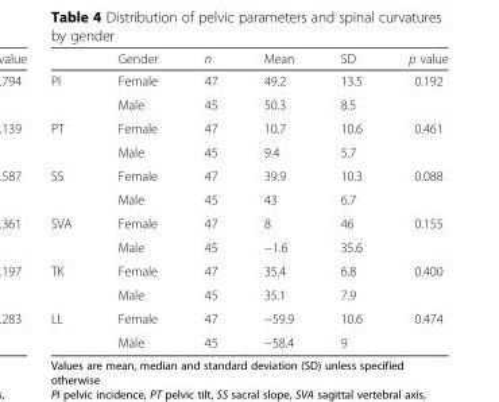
<table><thead><tr><td></td><td>Gender</td><td>n</td><td>Mean</td><td>SD</td><td>p value</td></tr></thead><tbody><tr><td rowspan="2">PI</td><td>Female</td><td>47</td><td>49.2</td><td>13.5</td><td rowspan="2">0.192</td></tr><tr><td>Male</td><td>45</td><td>50.3</td><td>8.5</td></tr><tr><td rowspan="2">PT</td><td>Female</td><td>47</td><td>10.7</td><td>10.6</td><td rowspan="2">0.461</td></tr><tr><td>Male</td><td>45</td><td>9.4</td><td>5.7</td></tr><tr><td rowspan="2">SS</td><td>Female</td><td>47</td><td>39.9</td><td>10.3</td><td rowspan="2">0.088</td></tr><tr><td>Male</td><td>45</td><td>43</td><td>6.7</td></tr><tr><td rowspan="2">SVA</td><td>Female</td><td>47</td><td>8</td><td>46</td><td rowspan="2">0.155</td></tr><tr><td>Male</td><td>45</td><td>−1.6</td><td>35.6</td></tr><tr><td rowspan="2">TK</td><td>Female</td><td>47</td><td>35.4</td><td>6.8</td><td rowspan="2">0.400</td></tr><tr><td>Male</td><td>45</td><td>35.1</td><td>7.9</td></tr><tr><td rowspan="2">LL</td><td>Female</td><td>47</td><td>−59.9</td><td>10.6</td><td rowspan="2">0.474</td></tr><tr><td>Male</td><td>45</td><td>−58.4</td><td>9</td></tr></tbody></table>